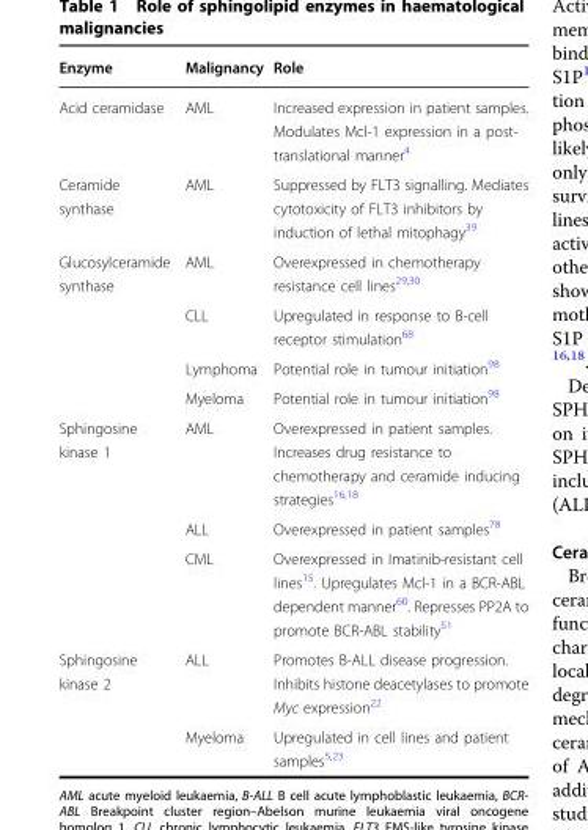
<table><thead><tr><td>Enzyme</td><td>Malignancy</td><td>Role</td></tr></thead><tbody><tr><td>Acid ceramidase</td><td>AML</td><td>Increased expression in patient samples. Modulates Mcl-1 expression in a post- translational manner<sup>4</sup></td></tr><tr><td>Ceramide synthase</td><td>AML</td><td>Suppressed by FLT3 signalling. Mediates cytotoxicity of FLT3 inhibitors by induction of lethal mitophagy<sup>39</sup></td></tr><tr><td rowspan="4">Glucosylceramide synthase</td><td>AML</td><td>Overexpressed in chemotherapy resistance cell lines<sup>29,30</sup></td></tr><tr><td>CLL</td><td>Upregulated in response to B-cell receptor stimulation<sup>68</sup></td></tr><tr><td>Lymphoma</td><td>Potential role in tumour initiation<sup>98</sup></td></tr><tr><td>Myeloma</td><td>Potential role in tumour initiation<sup>98</sup></td></tr><tr><td rowspan="3">Sphingosine kinase 1</td><td>AML</td><td>Overexpressed in patient samples. Increases drug resistance to chemotherapy and ceramide inducing strategies<sup>16,18</sup></td></tr><tr><td>ALL</td><td>Overexpressed in patient samples<sup>78</sup></td></tr><tr><td>CML</td><td>Overexpressed in Imatinib-resistant cell lines<sup>15</sup>. Upregulates Mcl-1 in a BCR-ABL dependent manner<sup>60</sup>. Represses PP2A to promote BCR-ABL stability<sup>51</sup></td></tr><tr><td rowspan="2">Sphingosine kinase 2</td><td>ALL</td><td>Promotes B-ALL disease progression. Inhibits histone deacetylases to promote Myc expression<sup>22</sup></td></tr><tr><td>Myeloma</td><td>Upregulated in cell lines and patient samples<sup>5,23</sup></td></tr></tbody></table>